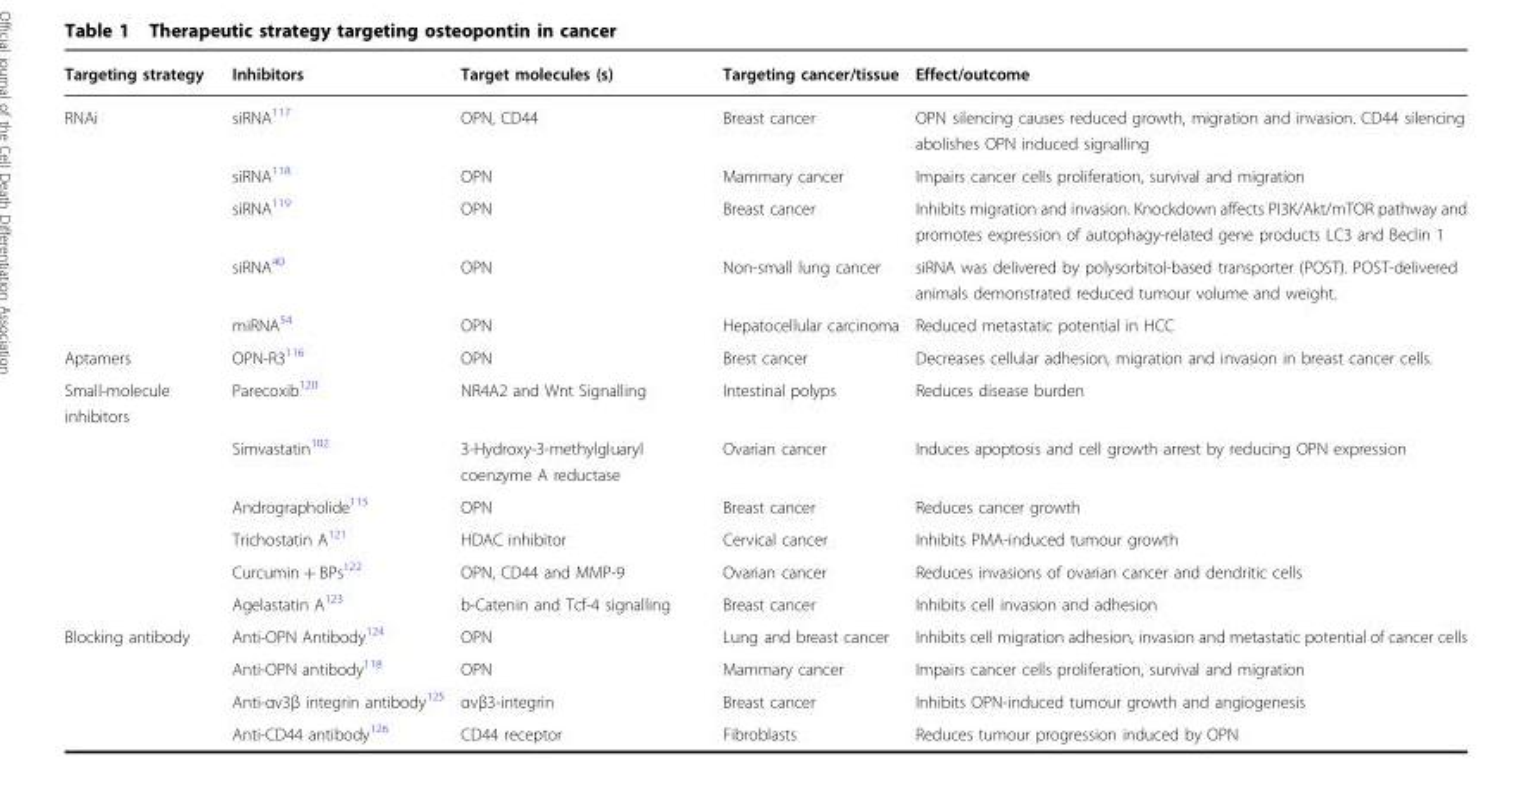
<table><thead><tr><td>Targeting strategy</td><td>Inhibitors</td><td>Target molecules (s)</td><td>Targeting cancer/tissue</td><td>Effect/outcome</td></tr></thead><tbody><tr><td rowspan="5">RNAi</td><td>siRNA<sup>117</sup></td><td>OPN, CD44</td><td>Breast cancer</td><td>OPN silencing causes reduced growth, migration and invasion. CD44 silencing abolishes OPN induced signalling</td></tr><tr><td>siRNA<sup>118</sup></td><td>OPN</td><td>Mammary cancer</td><td>Impairs cancer cells proliferation, survival and migration</td></tr><tr><td>siRNA<sup>119</sup></td><td>OPN</td><td>Breast cancer</td><td>Inhibits migration and invasion. Knockdown affects PI3K/Akt/mTOR pathway and promotes expression of autophagy-related gene products LC3 and Beclin 1</td></tr><tr><td>siRNA<sup>40</sup></td><td>OPN</td><td>Non-small lung cancer</td><td>siRNA was delivered by polysorbitol-based transporter (POST). POST-delivered animals demonstrated reduced tumour volume and weight.</td></tr><tr><td>miRNA<sup>54</sup></td><td>OPN</td><td>Hepatocellular carcinoma</td><td>Reduced metastatic potential in HCC</td></tr><tr><td>Aptamers</td><td>OPN-R3<sup>116</sup></td><td>OPN</td><td>Brest cancer</td><td>Decreases cellular adhesion, migration and invasion in breast cancer cells.</td></tr><tr><td rowspan="6">Small-molecule inhibitors</td><td>Parecoxib<sup>120</sup></td><td>NR4A2 and Wnt Signalling</td><td>Intestinal polyps</td><td>Reduces disease burden</td></tr><tr><td>Simvastatin<sup>102</sup></td><td>3-Hydroxy-3-methylgluaryl coenzyme A reductase</td><td>Ovarian cancer</td><td>Induces apoptosis and cell growth arrest by reducing OPN expression</td></tr><tr><td>Andrographolide<sup>115</sup></td><td>OPN</td><td>Breast cancer</td><td>Reduces cancer growth</td></tr><tr><td>Trichostatin A<sup>121</sup></td><td>HDAC inhibitor</td><td>Cervical cancer</td><td>Inhibits PMA-induced tumour growth</td></tr><tr><td>Curcumin + BPs<sup>122</sup></td><td>OPN, CD44 and MMP-9</td><td>Ovarian cancer</td><td>Reduces invasions of ovarian cancer and dendritic cells</td></tr><tr><td>Agelastatin A<sup>123</sup></td><td>b-Catenin and Tcf-4 signalling</td><td>Breast cancer</td><td>Inhibits cell invasion and adhesion</td></tr><tr><td rowspan="4">Blocking antibody</td><td>Anti-OPN Antibody<sup>124</sup></td><td>OPN</td><td>Lung and breast cancer</td><td>Inhibits cell migration adhesion, invasion and metastatic potential of cancer cells</td></tr><tr><td>Anti-OPN antibody<sup>118</sup></td><td>OPN</td><td>Mammary cancer</td><td>Impairs cancer cells proliferation, survival and migration</td></tr><tr><td>Anti-αv3β integrin antibody<sup>125</sup></td><td>αvβ3-integrin</td><td>Breast cancer</td><td>Inhibits OPN-induced tumour growth and angiogenesis</td></tr><tr><td>Anti-CD44 antibody<sup>126</sup></td><td>CD44 receptor</td><td>Fibroblasts</td><td>Reduces tumour progression induced by OPN</td></tr></tbody></table>